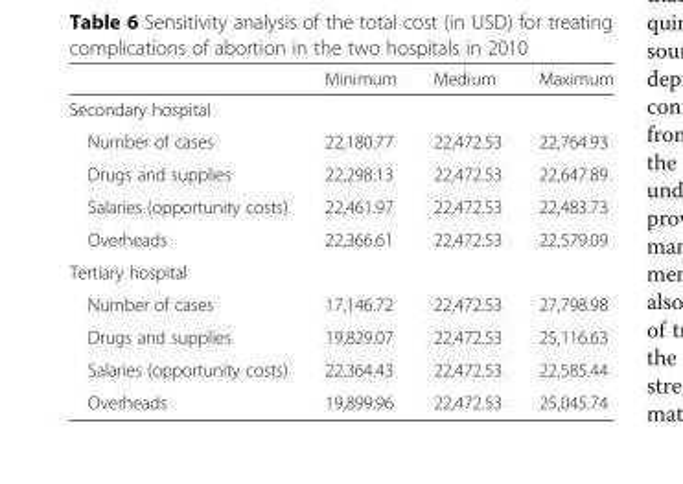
<table><thead><tr><td></td><td>Minimum</td><td>Medium</td><td>Maximum</td></tr></thead><tbody><tr><td colspan="4">Secondary hospital</td></tr><tr><td>Number of cases</td><td>22,180.77</td><td>22,472.53</td><td>22,764.93</td></tr><tr><td>Drugs and supplies</td><td>22,298.13</td><td>22,472.53</td><td>22,647.89</td></tr><tr><td>Salaries (opportunity costs)</td><td>22,461.97</td><td>22,472.53</td><td>22,483.73</td></tr><tr><td>Overheads</td><td>22,366.61</td><td>22,472.53</td><td>22,579.09</td></tr><tr><td colspan="4">Tertiary hospital</td></tr><tr><td>Number of cases</td><td>17,146.72</td><td>22,472.53</td><td>27,798.98</td></tr><tr><td>Drugs and supplies</td><td>19,829.07</td><td>22,472.53</td><td>25,116.63</td></tr><tr><td>Salaries (opportunity costs)</td><td>22,364.43</td><td>22,472.53</td><td>22,585.44</td></tr><tr><td>Overheads</td><td>19,899.96</td><td>22,472.53</td><td>25,045.74</td></tr></tbody></table>